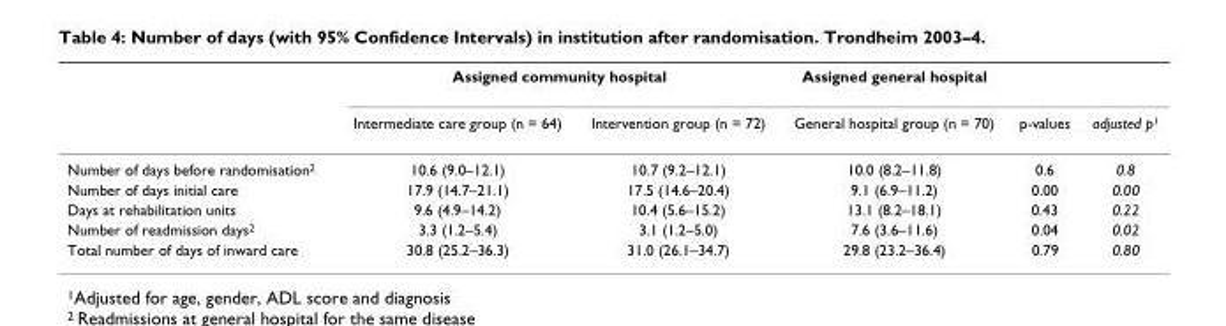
<table><thead><tr><td rowspan="2"></td><td colspan="2">Assigned community hospital</td><td rowspan="2">Assigned general hospital General hospital group (n = 70)</td><td rowspan="2">p-values</td><td rowspan="2">adjusted p<sup>1</sup></td></tr><tr><td>Intermediate care group (n = 64)</td><td>Intervention group (n = 72)</td></tr></thead><tbody><tr><td>Number of days before randomisation<sup>2</sup></td><td>10.6 (9.0–12.1)</td><td>10.7 (9.2–12.1)</td><td>10.0 (8.2–11.8)</td><td>0.6</td><td>0.8</td></tr><tr><td>Number of days initial care</td><td>17.9 (14.7–21.1)</td><td>17.5 (14.6–20.4)</td><td>9.1 (6.9–11.2)</td><td>0.00</td><td>0.00</td></tr><tr><td>Days at rehabilitation units</td><td>9.6 (4.9–14.2)</td><td>10.4 (5.6–15.2)</td><td>13.1 (8.2–18.1)</td><td>0.43</td><td>0.22</td></tr><tr><td>Number of readmission days<sup>2</sup></td><td>3.3 (1.2–5.4)</td><td>3.1 (1.2–5.0)</td><td>7.6 (3.6–11.6)</td><td>0.04</td><td>0.02</td></tr><tr><td>Total number of days of inward care</td><td>30.8 (25.2–36.3)</td><td>31.0 (26.1–34.7)</td><td>29.8 (23.2–36.4)</td><td>0.79</td><td>0.80</td></tr></tbody></table>